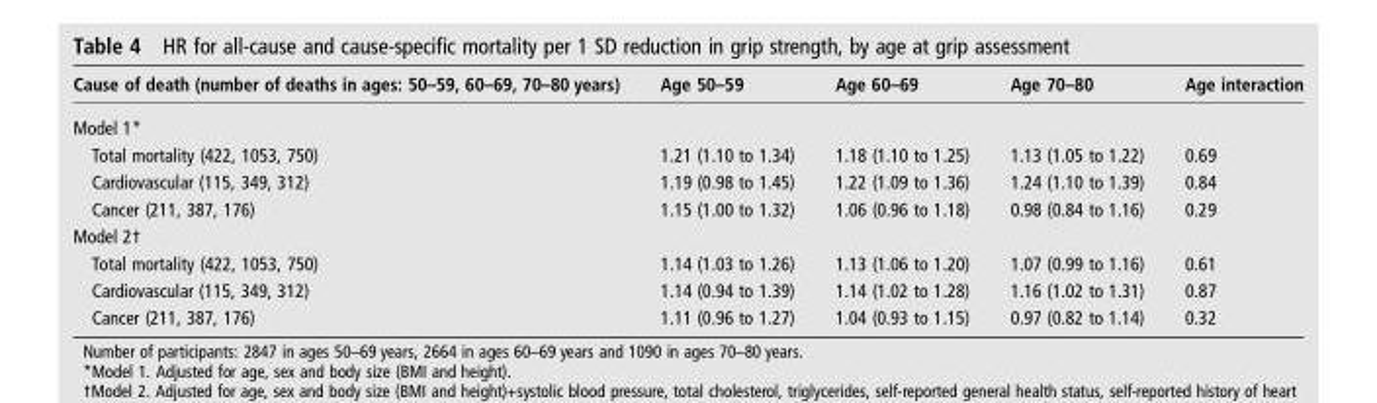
<table><thead><tr><td>Cause of death (number of deaths in ages: 50–59, 60–69, 70–80 years)</td><td>Age 50–59</td><td>Age 60–69</td><td>Age 70–80</td><td>Age interaction</td></tr></thead><tbody><tr><td colspan="5">Model 1*</td></tr><tr><td>Total mortality (422, 1053, 750)</td><td>1.21 (1.10 to 1.34)</td><td>1.18 (1.10 to 1.25)</td><td>1.13 (1.05 to 1.22)</td><td>0.69</td></tr><tr><td>Cardiovascular (115, 349, 312)</td><td>1.19 (0.98 to 1.45)</td><td>1.22 (1.09 to 1.36)</td><td>1.24 (1.10 to 1.39)</td><td>0.84</td></tr><tr><td>Cancer (211, 387, 176)</td><td>1.15 (1.00 to 1.32)</td><td>1.06 (0.96 to 1.18)</td><td>0.98 (0.84 to 1.16)</td><td>0.29</td></tr><tr><td colspan="5">Model 2†</td></tr><tr><td>Total mortality (422, 1053, 750)</td><td>1.14 (1.03 to 1.26)</td><td>1.13 (1.06 to 1.20)</td><td>1.07 (0.99 to 1.16)</td><td>0.61</td></tr><tr><td>Cardiovascular (115, 349, 312)</td><td>1.14 (0.94 to 1.39)</td><td>1.14 (1.02 to 1.28)</td><td>1.16 (1.02 to 1.31)</td><td>0.87</td></tr><tr><td>Cancer (211, 387, 176)</td><td>1.11 (0.96 to 1.27)</td><td>1.04 (0.93 to 1.15)</td><td>0.97 (0.82 to 1.14)</td><td>0.32</td></tr></tbody></table>